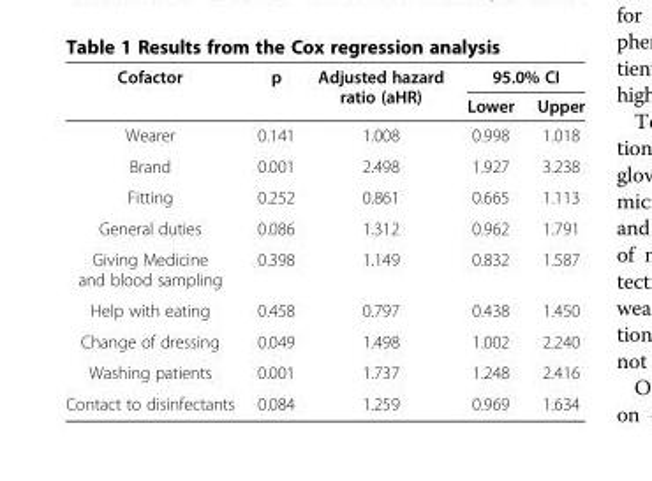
<table><thead><tr><td rowspan="2">Cofactor</td><td rowspan="2">p</td><td rowspan="2">Adjusted hazard ratio (aHR)</td><td colspan="2">95.0% CI</td></tr><tr><td>Lower</td><td>Upper</td></tr></thead><tbody><tr><td>Wearer</td><td>0.141</td><td>1.008</td><td>0.998</td><td>1.018</td></tr><tr><td>Brand</td><td>0.001</td><td>2.498</td><td>1.927</td><td>3.238</td></tr><tr><td>Fitting</td><td>0.252</td><td>0.861</td><td>0.665</td><td>1.113</td></tr><tr><td>General duties</td><td>0.086</td><td>1.312</td><td>0.962</td><td>1.791</td></tr><tr><td>Giving Medicine and blood sampling</td><td>0.398</td><td>1.149</td><td>0.832</td><td>1.587</td></tr><tr><td>Help with eating</td><td>0.458</td><td>0.797</td><td>0.438</td><td>1.450</td></tr><tr><td>Change of dressing</td><td>0.049</td><td>1.498</td><td>1.002</td><td>2.240</td></tr><tr><td>Washing patients</td><td>0.001</td><td>1.737</td><td>1.248</td><td>2.416</td></tr><tr><td>Contact to disinfectants</td><td>0.084</td><td>1.259</td><td>0.969</td><td>1.634</td></tr></tbody></table>